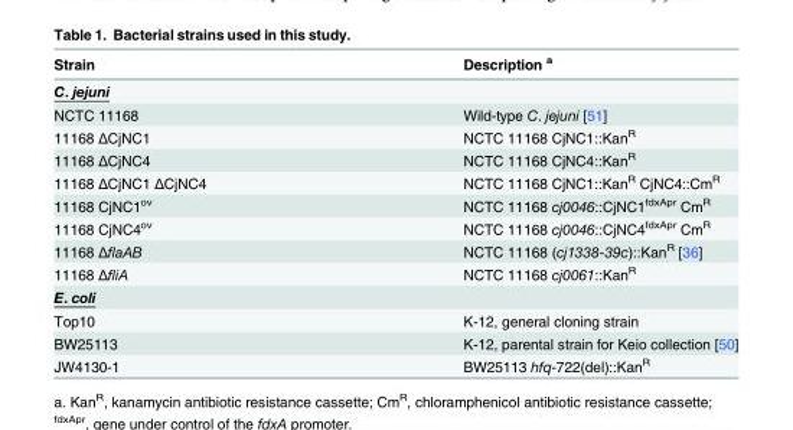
<table><thead><tr><td>Strain</td><td>Description <sup>a</sup></td></tr></thead><tbody><tr><td colspan="2">C. jejuni</td></tr><tr><td>NCTC 11168</td><td>Wild-type C. jejuni [51]</td></tr><tr><td>11168 ΔCjNC1</td><td>NCTC 11168 CjNC1::Kan<sup>R</sup></td></tr><tr><td>11168 ΔCjNC4</td><td>NCTC 11168 CjNC4::Kan<sup>R</sup></td></tr><tr><td>11168 ΔCjNC1 ΔCjNC4</td><td>NCTC 11168 CjNC1::Kan<sup>R</sup> CjNC4::Cm<sup>R</sup></td></tr><tr><td>11168 CjNC1<sup>ov</sup></td><td>NCTC 11168 cj0046::CjNC1<sup>fdxApr</sup> Cm<sup>R</sup></td></tr><tr><td>11168 CjNC4<sup>ov</sup></td><td>NCTC 11168 cj0046::CjNC4<sup>fdxApr</sup> Cm<sup>R</sup></td></tr><tr><td>11168 ΔflaAB</td><td>NCTC 11168 (cj1338-39c)::Kan<sup>R</sup> [36]</td></tr><tr><td>11168 ΔfliA</td><td>NCTC 11168 cj0061::Kan<sup>R</sup></td></tr><tr><td colspan="2">E. coli</td></tr><tr><td>Top10</td><td>K-12, general cloning strain</td></tr><tr><td>BW25113</td><td>K-12, parental strain for Keio collection [50]</td></tr><tr><td>JW4130-1</td><td>BW25113 hfq-722(del)::Kan<sup>R</sup></td></tr></tbody></table>